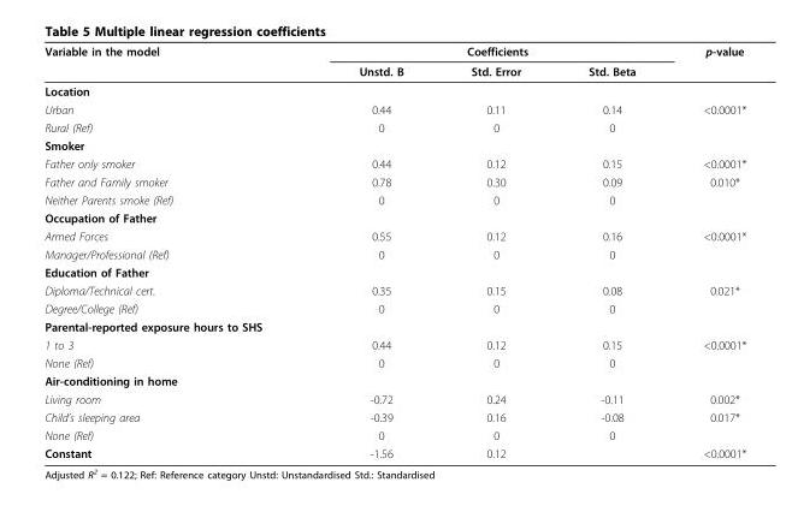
<table><thead><tr><td rowspan="2">Variable in the model</td><td colspan="3">Coefficients</td><td rowspan="2">p-value</td></tr><tr><td>Unstd. B</td><td>Std. Error</td><td>Std. Beta</td></tr></thead><tbody><tr><td colspan="5">Location</td></tr><tr><td>Urban</td><td>0.44</td><td>0.11</td><td>0.14</td><td>&lt;0.0001*</td></tr><tr><td>Rural (Ref)</td><td>0</td><td>0</td><td>0</td><td></td></tr><tr><td colspan="5">Smoker</td></tr><tr><td>Father only smoker</td><td>0.44</td><td>0.12</td><td>0.15</td><td>&lt;0.0001*</td></tr><tr><td>Father and Family smoker</td><td>0.78</td><td>0.30</td><td>0.09</td><td>0.010*</td></tr><tr><td>Neither Parents smoke (Ref)</td><td>0</td><td>0</td><td>0</td><td></td></tr><tr><td colspan="5">Occupation of Father</td></tr><tr><td>Armed Forces</td><td>0.55</td><td>0.12</td><td>0.16</td><td>&lt;0.0001*</td></tr><tr><td>Manager/Professional (Ref)</td><td>0</td><td>0</td><td>0</td><td></td></tr><tr><td colspan="5">Education of Father</td></tr><tr><td>Diploma/Technical cert.</td><td>0.35</td><td>0.15</td><td>0.08</td><td>0.021*</td></tr><tr><td>Degree/College (Ref)</td><td>0</td><td>0</td><td>0</td><td></td></tr><tr><td colspan="5">Parental-reported exposure hours to SHS</td></tr><tr><td>1 to 3</td><td>0.44</td><td>0.12</td><td>0.15</td><td>&lt;0.0001*</td></tr><tr><td>None (Ref)</td><td>0</td><td>0</td><td>0</td><td></td></tr><tr><td colspan="5">Air-conditioning in home</td></tr><tr><td>Living room</td><td>-0.72</td><td>0.24</td><td>-0.11</td><td>0.002*</td></tr><tr><td>Child’s sleeping area</td><td>-0.39</td><td>0.16</td><td>-0.08</td><td>0.017*</td></tr><tr><td>None (Ref)</td><td>0</td><td>0</td><td>0</td><td></td></tr><tr><td>Constant</td><td>-1.56</td><td>0.12</td><td></td><td>&lt;0.0001*</td></tr></tbody></table>